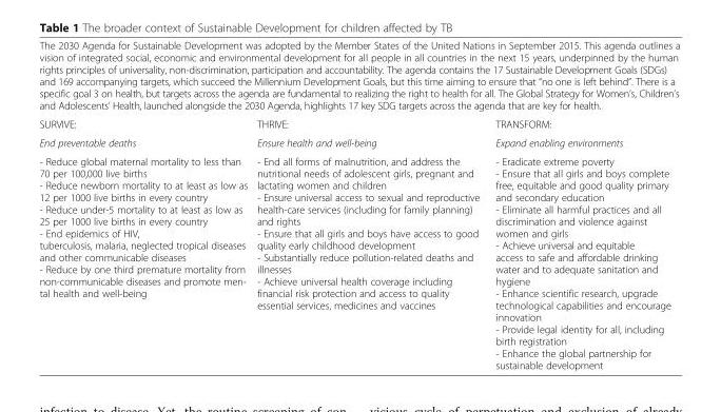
<table><tbody><tr><td colspan="3">The 2030 Agenda for Sustainable Development was adopted by the Member States of the United Nations in September 2015. This agenda outlines a vision of integrated social, economic and environmental development for all people in all countries in the next 15 years, underpinned by the human rights principles of universality, non-discrimination, participation and accountability. The agenda contains the 17 Sustainable Development Goals (SDGs) and 169 accompanying targets, which succeed the Millennium Development Goals, but this time aiming to ensure that “no one is left behind”. There is a specific goal 3 on health, but targets across the agenda are fundamental to realizing the right to health for all. The Global Strategy for Women’s, Children’s and Adolescents’ Health, launched alongside the 2030 Agenda, highlights 17 key SDG targets across the agenda that are key for health.</td></tr><tr><td>SURVIVE:</td><td>THRIVE:</td><td>TRANSFORM:</td></tr><tr><td>End preventable deaths</td><td>Ensure health and well-being</td><td>Expand enabling environments</td></tr><tr><td>- Reduce global maternal mortality to less than 70 per 100,000 live births - Reduce newborn mortality to at least as low as 12 per 1000 live births in every country - Reduce under-5 mortality to at least as low as 25 per 1000 live births in every country - End epidemics of HIV, tuberculosis, malaria, neglected tropical diseases and other communicable diseases - Reduce by one third premature mortality from non-communicable diseases and promote men- tal health and well-being</td><td>- End all forms of malnutrition, and address the nutritional needs of adolescent girls, pregnant and lactating women and children - Ensure universal access to sexual and reproductive health-care services (including for family planning) and rights - Ensure that all girls and boys have access to good quality early childhood development - Substantially reduce pollution-related deaths and illnesses - Achieve universal health coverage including financial risk protection and access to quality essential services, medicines and vaccines</td><td>- Eradicate extreme poverty - Ensure that all girls and boys complete free, equitable and good quality primary and secondary education - Eliminate all harmful practices and all discrimination and violence against women and girls - Achieve universal and equitable access to safe and affordable drinking water and to adequate sanitation and hygiene - Enhance scientific research, upgrade technological capabilities and encourage innovation - Provide legal identity for all, including birth registration - Enhance the global partnership for sustainable development</td></tr></tbody></table>